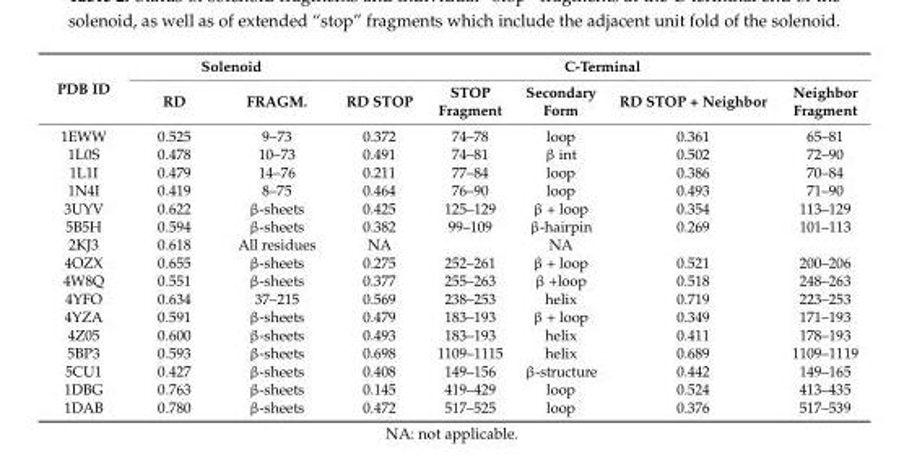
<table><thead><tr><td rowspan="2">PDB ID</td><td colspan="2">Solenoid</td><td colspan="5">C-Terminal</td></tr><tr><td>RD</td><td>FRAGM.</td><td>RD STOP</td><td>STOP Fragment</td><td>Secondary Form</td><td>RD STOP + Neighbor</td><td>Neighbor Fragment</td></tr></thead><tbody><tr><td>1EWW</td><td>0.525</td><td>9–73</td><td>0.372</td><td>74–78</td><td>loop</td><td>0.361</td><td>65–81</td></tr><tr><td>1L0S</td><td>0.478</td><td>10–73</td><td>0.491</td><td>74–81</td><td>β int</td><td>0.502</td><td>72–90</td></tr><tr><td>1L1I</td><td>0.479</td><td>14–76</td><td>0.211</td><td>77–84</td><td>loop</td><td>0.386</td><td>70–84</td></tr><tr><td>1N4I</td><td>0.419</td><td>8–75</td><td>0.464</td><td>76–90</td><td>loop</td><td>0.493</td><td>71–90</td></tr><tr><td>3UYV</td><td>0.622</td><td>β-sheets</td><td>0.425</td><td>125–129</td><td>β + loop</td><td>0.354</td><td>113–129</td></tr><tr><td>5B5H</td><td>0.594</td><td>β-sheets</td><td>0.382</td><td>99–109</td><td>β-hairpin</td><td>0.269</td><td>101–113</td></tr><tr><td>2KJ3</td><td>0.618</td><td>All residues</td><td>NA</td><td></td><td>NA</td><td></td><td></td></tr><tr><td>4OZX</td><td>0.655</td><td>β-sheets</td><td>0.275</td><td>252–261</td><td>β + loop</td><td>0.521</td><td>200–206</td></tr><tr><td>4W8Q</td><td>0.551</td><td>β-sheets</td><td>0.377</td><td>255–263</td><td>β +loop</td><td>0.518</td><td>248–263</td></tr><tr><td>4YFO</td><td>0.634</td><td>37–215</td><td>0.569</td><td>238–253</td><td>helix</td><td>0.719</td><td>223–253</td></tr><tr><td>4YZA</td><td>0.591</td><td>β-sheets</td><td>0.479</td><td>183–193</td><td>β + loop</td><td>0.349</td><td>171–193</td></tr><tr><td>4Z05</td><td>0.600</td><td>β-sheets</td><td>0.493</td><td>183–193</td><td>helix</td><td>0.411</td><td>178–193</td></tr><tr><td>5BP3</td><td>0.593</td><td>β-sheets</td><td>0.698</td><td>1109–1115</td><td>helix</td><td>0.689</td><td>1109–1119</td></tr><tr><td>5CU1</td><td>0.427</td><td>β-sheets</td><td>0.408</td><td>149–156</td><td>β-structure</td><td>0.442</td><td>149–165</td></tr><tr><td>1DBG</td><td>0.763</td><td>β-sheets</td><td>0.145</td><td>419–429</td><td>loop</td><td>0.524</td><td>413–435</td></tr><tr><td>1DAB</td><td>0.780</td><td>β-sheets</td><td>0.472</td><td>517–525</td><td>loop</td><td>0.376</td><td>517–539</td></tr></tbody></table>